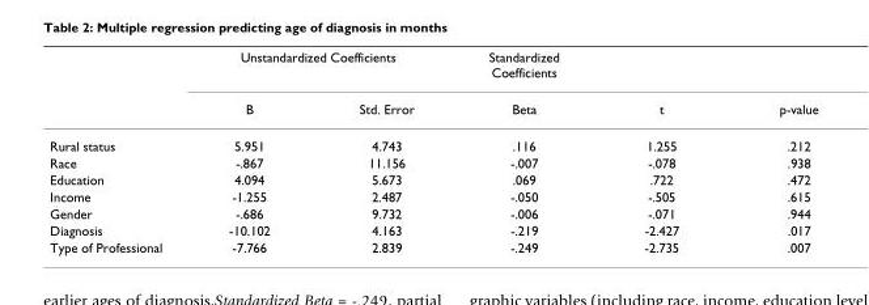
<table><thead><tr><td rowspan="2"></td><td colspan="2">Unstandardized Coefficients</td><td rowspan="2">Standardized Coefficients Beta</td><td rowspan="2">t</td><td rowspan="2">p-value</td></tr><tr><td>B</td><td>Std. Error</td></tr></thead><tbody><tr><td>Rural status</td><td>5.951</td><td>4.743</td><td>.116</td><td>1.255</td><td>.212</td></tr><tr><td>Race</td><td>-.867</td><td>11.156</td><td>-.007</td><td>-.078</td><td>.938</td></tr><tr><td>Education</td><td>4.094</td><td>5.673</td><td>.069</td><td>.722</td><td>.472</td></tr><tr><td>Income</td><td>-1.255</td><td>2.487</td><td>-.050</td><td>-.505</td><td>.615</td></tr><tr><td>Gender</td><td>-.686</td><td>9.732</td><td>-.006</td><td>-.071</td><td>.944</td></tr><tr><td>Diagnosis</td><td>-10.102</td><td>4.163</td><td>-.219</td><td>-2.427</td><td>.017</td></tr><tr><td>Type of Professional</td><td>-7.766</td><td>2.839</td><td>-.249</td><td>-2.735</td><td>.007</td></tr></tbody></table>